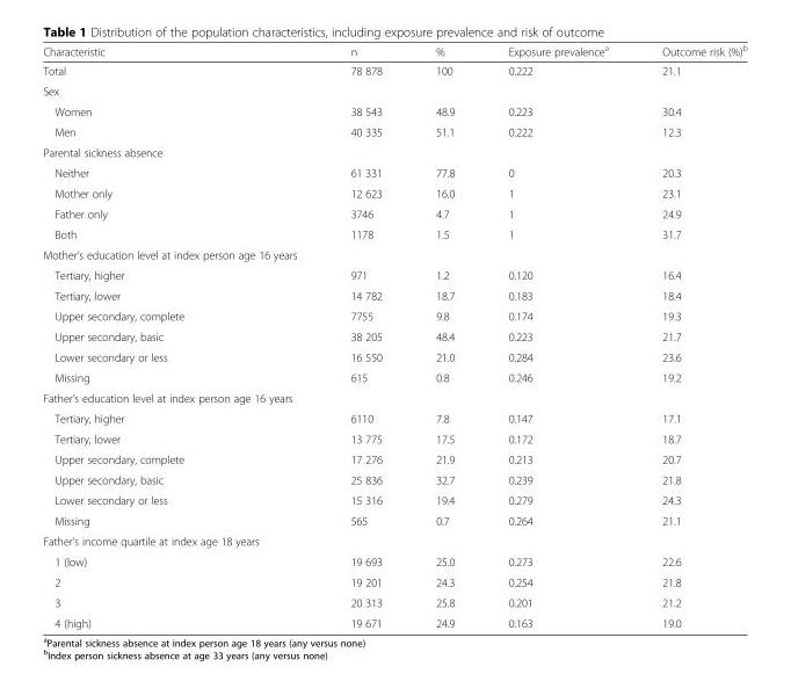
<table><thead><tr><td>Characteristic</td><td>n</td><td>%</td><td>Exposure prevalence<sup>a</sup></td><td>Outcome risk (%)<sup>b</sup></td></tr></thead><tbody><tr><td>Total</td><td>78 878</td><td>100</td><td>0.222</td><td>21.1</td></tr><tr><td colspan="5">Sex</td></tr><tr><td>Women</td><td>38 543</td><td>48.9</td><td>0.223</td><td>30.4</td></tr><tr><td>Men</td><td>40 335</td><td>51.1</td><td>0.222</td><td>12.3</td></tr><tr><td colspan="5">Parental sickness absence</td></tr><tr><td>Neither</td><td>61 331</td><td>77.8</td><td>0</td><td>20.3</td></tr><tr><td>Mother only</td><td>12 623</td><td>16.0</td><td>1</td><td>23.1</td></tr><tr><td>Father only</td><td>3746</td><td>4.7</td><td>1</td><td>24.9</td></tr><tr><td>Both</td><td>1178</td><td>1.5</td><td>1</td><td>31.7</td></tr><tr><td colspan="5">Mother’s education level at index person age 16 years</td></tr><tr><td>Tertiary, higher</td><td>971</td><td>1.2</td><td>0.120</td><td>16.4</td></tr><tr><td>Tertiary, lower</td><td>14 782</td><td>18.7</td><td>0.183</td><td>18.4</td></tr><tr><td>Upper secondary, complete</td><td>7755</td><td>9.8</td><td>0.174</td><td>19.3</td></tr><tr><td>Upper secondary, basic</td><td>38 205</td><td>48.4</td><td>0.223</td><td>21.7</td></tr><tr><td>Lower secondary or less</td><td>16 550</td><td>21.0</td><td>0.284</td><td>23.6</td></tr><tr><td>Missing</td><td>615</td><td>0.8</td><td>0.246</td><td>19.2</td></tr><tr><td colspan="5">Father’s education level at index person age 16 years</td></tr><tr><td>Tertiary, higher</td><td>6110</td><td>7.8</td><td>0.147</td><td>17.1</td></tr><tr><td>Tertiary, lower</td><td>13 775</td><td>17.5</td><td>0.172</td><td>18.7</td></tr><tr><td>Upper secondary, complete</td><td>17 276</td><td>21.9</td><td>0.213</td><td>20.7</td></tr><tr><td>Upper secondary, basic</td><td>25 836</td><td>32.7</td><td>0.239</td><td>21.8</td></tr><tr><td>Lower secondary or less</td><td>15 316</td><td>19.4</td><td>0.279</td><td>24.3</td></tr><tr><td>Missing</td><td>565</td><td>0.7</td><td>0.264</td><td>21.1</td></tr><tr><td colspan="5">Father’s income quartile at index age 18 years</td></tr><tr><td>1 (low)</td><td>19 693</td><td>25.0</td><td>0.273</td><td>22.6</td></tr><tr><td>2</td><td>19 201</td><td>24.3</td><td>0.254</td><td>21.8</td></tr><tr><td>3</td><td>20 313</td><td>25.8</td><td>0.201</td><td>21.2</td></tr><tr><td>4 (high)</td><td>19 671</td><td>24.9</td><td>0.163</td><td>19.0</td></tr></tbody></table>